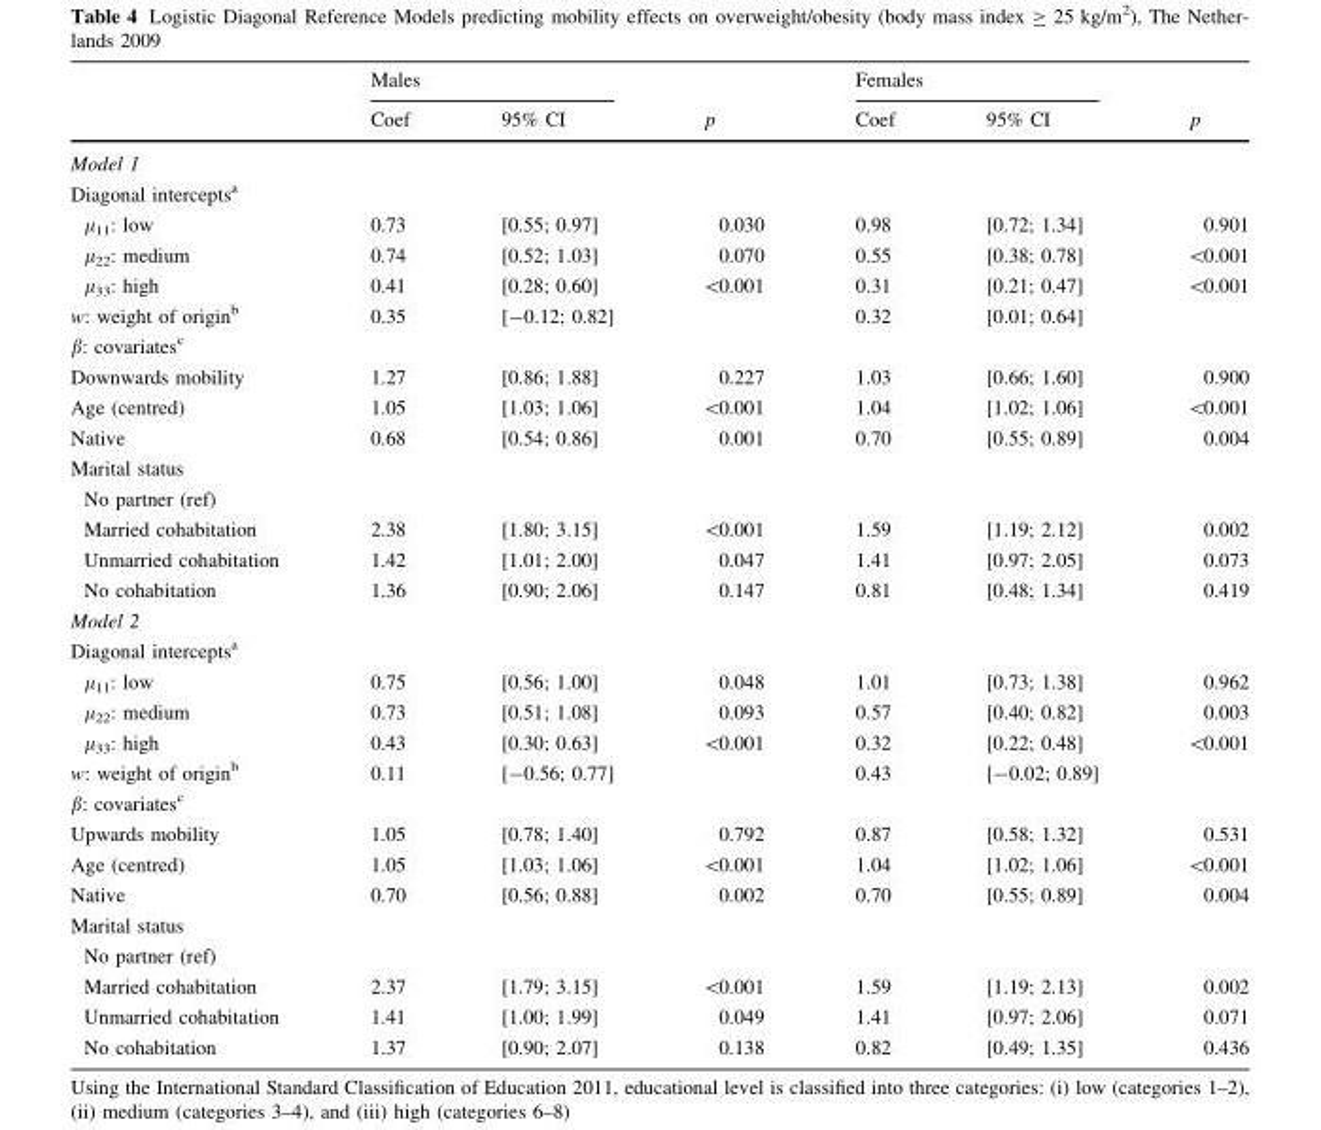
<table><thead><tr><td rowspan="2"></td><td colspan="2">Males</td><td rowspan="2">p</td><td colspan="2">Females</td><td rowspan="2">p</td></tr><tr><td>Coef</td><td>95% CI</td><td>Coef</td><td>95% CI</td></tr></thead><tbody><tr><td colspan="7">Model 1</td></tr><tr><td colspan="7">Diagonal intercepts<sup>a</sup></td></tr><tr><td>µ<sub>11</sub>: low</td><td>0.73</td><td>[0.55; 0.97]</td><td>0.030</td><td>0.98</td><td>[0.72; 1.34]</td><td>0.901</td></tr><tr><td>µ<sub>22</sub>: medium</td><td>0.74</td><td>[0.52; 1.03]</td><td>0.070</td><td>0.55</td><td>[0.38; 0.78]</td><td>&lt;0.001</td></tr><tr><td>µ<sub>33</sub>: high</td><td>0.41</td><td>[0.28; 0.60]</td><td>&lt;0.001</td><td>0.31</td><td>[0.21; 0.47]</td><td>&lt;0.001</td></tr><tr><td>w: weight of origin<sup>b</sup></td><td>0.35</td><td>[-0.12; 0.82]</td><td></td><td>0.32</td><td>[0.01; 0.64]</td><td></td></tr><tr><td colspan="7">β: covariates<sup>c</sup></td></tr><tr><td>Downwards mobility</td><td>1.27</td><td>[0.86; 1.88]</td><td>0.227</td><td>1.03</td><td>[0.66; 1.60]</td><td>0.900</td></tr><tr><td>Age (centred)</td><td>1.05</td><td>[1.03; 1.06]</td><td>&lt;0.001</td><td>1.04</td><td>[1.02; 1.06]</td><td>&lt;0.001</td></tr><tr><td>Native</td><td>0.68</td><td>[0.54; 0.86]</td><td>0.001</td><td>0.70</td><td>[0.55; 0.89]</td><td>0.004</td></tr><tr><td colspan="7">Marital status</td></tr><tr><td colspan="7">No partner (ref)</td></tr><tr><td>Married cohabitation</td><td>2.38</td><td>[1.80; 3.15]</td><td>&lt;0.001</td><td>1.59</td><td>[1.19; 2.12]</td><td>0.002</td></tr><tr><td>Unmarried cohabitation</td><td>1.42</td><td>[1.01; 2.00]</td><td>0.047</td><td>1.41</td><td>[0.97; 2.05]</td><td>0.073</td></tr><tr><td>No cohabitation</td><td>1.36</td><td>[0.90; 2.06]</td><td>0.147</td><td>0.81</td><td>[0.48; 1.34]</td><td>0.419</td></tr><tr><td colspan="7">Model 2</td></tr><tr><td colspan="7">Diagonal intercepts<sup>a</sup></td></tr><tr><td>µ<sub>11</sub>: low</td><td>0.75</td><td>[0.56; 1.00]</td><td>0.048</td><td>1.01</td><td>[0.73; 1.38]</td><td>0.962</td></tr><tr><td>µ<sub>22</sub>: medium</td><td>0.73</td><td>[0.51; 1.08]</td><td>0.093</td><td>0.57</td><td>[0.40; 0.82]</td><td>0.003</td></tr><tr><td>µ<sub>33</sub>: high</td><td>0.43</td><td>[0.30; 0.63]</td><td>&lt;0.001</td><td>0.32</td><td>[0.22; 0.48]</td><td>&lt;0.001</td></tr><tr><td>w: weight of origin<sup>b</sup></td><td>0.11</td><td>[-0.56; 0.77]</td><td></td><td>0.43</td><td>[-0.02; 0.89]</td><td></td></tr><tr><td colspan="7">β: covariates<sup>c</sup></td></tr><tr><td>Upwards mobility</td><td>1.05</td><td>[0.78; 1.40]</td><td>0.792</td><td>0.87</td><td>[0.58; 1.32]</td><td>0.531</td></tr><tr><td>Age (centred)</td><td>1.05</td><td>[1.03; 1.06]</td><td>&lt;0.001</td><td>1.04</td><td>[1.02; 1.06]</td><td>&lt;0.001</td></tr><tr><td>Native</td><td>0.70</td><td>[0.56; 0.88]</td><td>0.002</td><td>0.70</td><td>[0.55; 0.89]</td><td>0.004</td></tr><tr><td colspan="7">Marital status</td></tr><tr><td colspan="7">No partner (ref)</td></tr><tr><td>Married cohabitation</td><td>2.37</td><td>[1.79; 3.15]</td><td>&lt;0.001</td><td>1.59</td><td>[1.19; 2.13]</td><td>0.002</td></tr><tr><td>Unmarried cohabitation</td><td>1.41</td><td>[1.00; 1.99]</td><td>0.049</td><td>1.41</td><td>[0.97; 2.06]</td><td>0.071</td></tr><tr><td>No cohabitation</td><td>1.37</td><td>[0.90; 2.07]</td><td>0.138</td><td>0.82</td><td>[0.49; 1.35]</td><td>0.436</td></tr></tbody></table>